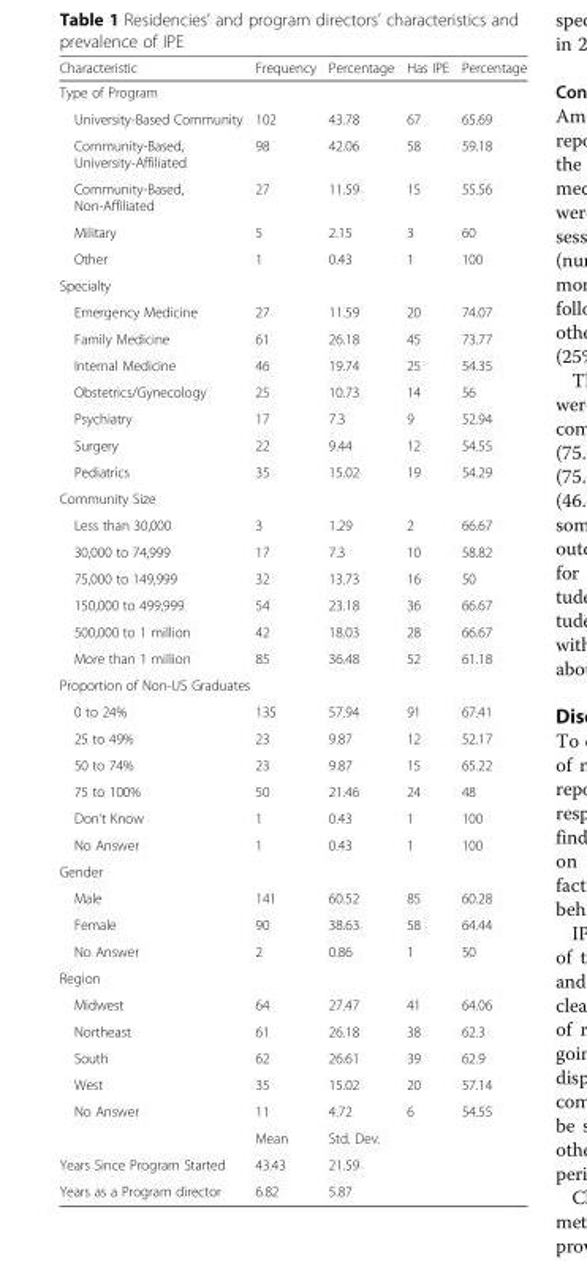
<table><thead><tr><td>Characteristic</td><td>Frequency</td><td>Percentage</td><td>Has IPE</td><td>Percentage</td></tr></thead><tbody><tr><td colspan="5">Type of Program</td></tr><tr><td>University-Based Community</td><td>102</td><td>43.78</td><td>67</td><td>65.69</td></tr><tr><td>Community-Based, University-Affiliated</td><td>98</td><td>42.06</td><td>58</td><td>59.18</td></tr><tr><td>Community-Based, Non-Affiliated</td><td>27</td><td>11.59</td><td>15</td><td>55.56</td></tr><tr><td>Military</td><td>5</td><td>2.15</td><td>3</td><td>60</td></tr><tr><td>Other</td><td>1</td><td>0.43</td><td>1</td><td>100</td></tr><tr><td colspan="5">Specialty</td></tr><tr><td>Emergency Medicine</td><td>27</td><td>11.59</td><td>20</td><td>74.07</td></tr><tr><td>Family Medicine</td><td>61</td><td>26.18</td><td>45</td><td>73.77</td></tr><tr><td>Internal Medicine</td><td>46</td><td>19.74</td><td>25</td><td>54.35</td></tr><tr><td>Obstetrics/Gynecology</td><td>25</td><td>10.73</td><td>14</td><td>56</td></tr><tr><td>Psychiatry</td><td>17</td><td>7.3</td><td>9</td><td>52.94</td></tr><tr><td>Surgery</td><td>22</td><td>9.44</td><td>12</td><td>54.55</td></tr><tr><td>Pediatrics</td><td>35</td><td>15.02</td><td>19</td><td>54.29</td></tr><tr><td colspan="5">Community Size</td></tr><tr><td>Less than 30,000</td><td>3</td><td>1.29</td><td>2</td><td>66.67</td></tr><tr><td>30,000 to 74,999</td><td>17</td><td>7.3</td><td>10</td><td>58.82</td></tr><tr><td>75,000 to 149,999</td><td>32</td><td>13.73</td><td>16</td><td>50</td></tr><tr><td>150,000 to 499,999</td><td>54</td><td>23.18</td><td>36</td><td>66.67</td></tr><tr><td>500,000 to 1 million</td><td>42</td><td>18.03</td><td>28</td><td>66.67</td></tr><tr><td>More than 1 million</td><td>85</td><td>36.48</td><td>52</td><td>61.18</td></tr><tr><td colspan="5">Proportion of Non-US Graduates</td></tr><tr><td>0 to 24%</td><td>135</td><td>57.94</td><td>91</td><td>67.41</td></tr><tr><td>25 to 49%</td><td>23</td><td>9.87</td><td>12</td><td>52.17</td></tr><tr><td>50 to 74%</td><td>23</td><td>9.87</td><td>15</td><td>65.22</td></tr><tr><td>75 to 100%</td><td>50</td><td>21.46</td><td>24</td><td>48</td></tr><tr><td>Don’t Know</td><td>1</td><td>0.43</td><td>1</td><td>100</td></tr><tr><td>No Answer</td><td>1</td><td>0.43</td><td>1</td><td>100</td></tr><tr><td colspan="5">Gender</td></tr><tr><td>Male</td><td>141</td><td>60.52</td><td>85</td><td>60.28</td></tr><tr><td>Female</td><td>90</td><td>38.63</td><td>58</td><td>64.44</td></tr><tr><td>No Answer</td><td>2</td><td>0.86</td><td>1</td><td>50</td></tr><tr><td colspan="5">Region</td></tr><tr><td>Midwest</td><td>64</td><td>27.47</td><td>41</td><td>64.06</td></tr><tr><td>Northeast</td><td>61</td><td>26.18</td><td>38</td><td>62.3</td></tr><tr><td>South</td><td>62</td><td>26.61</td><td>39</td><td>62.9</td></tr><tr><td>West</td><td>35</td><td>15.02</td><td>20</td><td>57.14</td></tr><tr><td rowspan="2">No Answer</td><td>11</td><td>4.72</td><td>6</td><td>54.55</td></tr><tr><td>Mean</td><td>Std. Dev.</td><td></td><td></td></tr><tr><td>Years Since Program Started</td><td>43.43</td><td>21.59</td><td></td><td></td></tr><tr><td>Years as a Program director</td><td>6.82</td><td>5.87</td><td></td><td></td></tr></tbody></table>